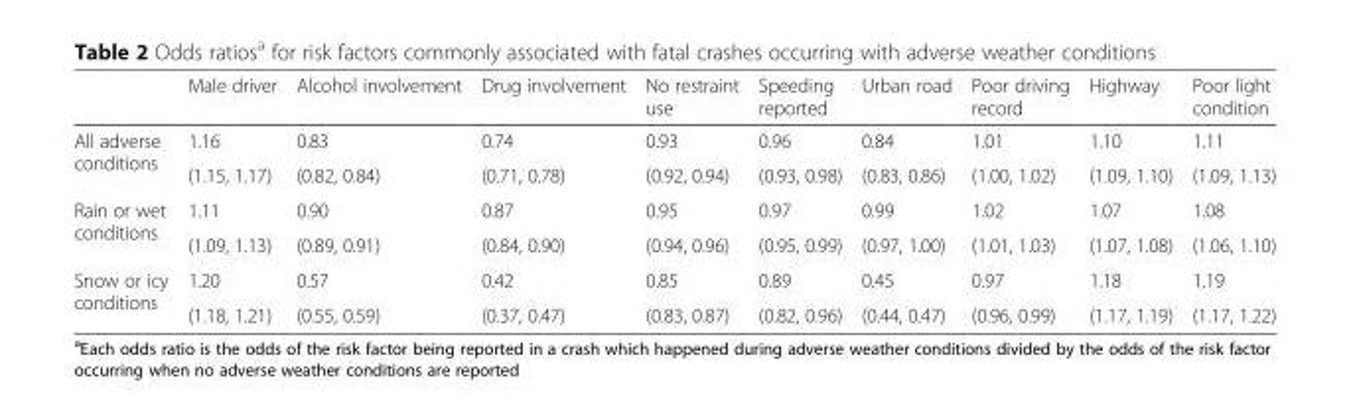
<table><thead><tr><td></td><td>Male driver</td><td>Alcohol involvement</td><td>Drug involvement</td><td>No restraint use</td><td>Speeding reported</td><td>Urban road</td><td>Poor driving record</td><td>Highway</td><td>Poor light condition</td></tr></thead><tbody><tr><td rowspan="2">All adverse conditions</td><td>1.16</td><td>0.83</td><td>0.74</td><td>0.93</td><td>0.96</td><td>0.84</td><td>1.01</td><td>1.10</td><td>1.11</td></tr><tr><td>(1.15, 1.17)</td><td>(0.82, 0.84)</td><td>(0.71, 0.78)</td><td>(0.92, 0.94)</td><td>(0.93, 0.98)</td><td>(0.83, 0.86)</td><td>(1.00, 1.02)</td><td>(1.09, 1.10)</td><td>(1.09, 1.13)</td></tr><tr><td rowspan="2">Rain or wet conditions</td><td>1.11</td><td>0.90</td><td>0.87</td><td>0.95</td><td>0.97</td><td>0.99</td><td>1.02</td><td>1.07</td><td>1.08</td></tr><tr><td>(1.09, 1.13)</td><td>(0.89, 0.91)</td><td>(0.84, 0.90)</td><td>(0.94, 0.96)</td><td>(0.95, 0.99)</td><td>(0.97, 1.00)</td><td>(1.01, 1.03)</td><td>(1.07, 1.08)</td><td>(1.06, 1.10)</td></tr><tr><td rowspan="2">Snow or icy conditions</td><td>1.20</td><td>0.57</td><td>0.42</td><td>0.85</td><td>0.89</td><td>0.45</td><td>0.97</td><td>1.18</td><td>1.19</td></tr><tr><td>(1.18, 1.21)</td><td>(0.55, 0.59)</td><td>(0.37, 0.47)</td><td>(0.83, 0.87)</td><td>(0.82, 0.96)</td><td>(0.44, 0.47)</td><td>(0.96, 0.99)</td><td>(1.17, 1.19)</td><td>(1.17, 1.22)</td></tr></tbody></table>